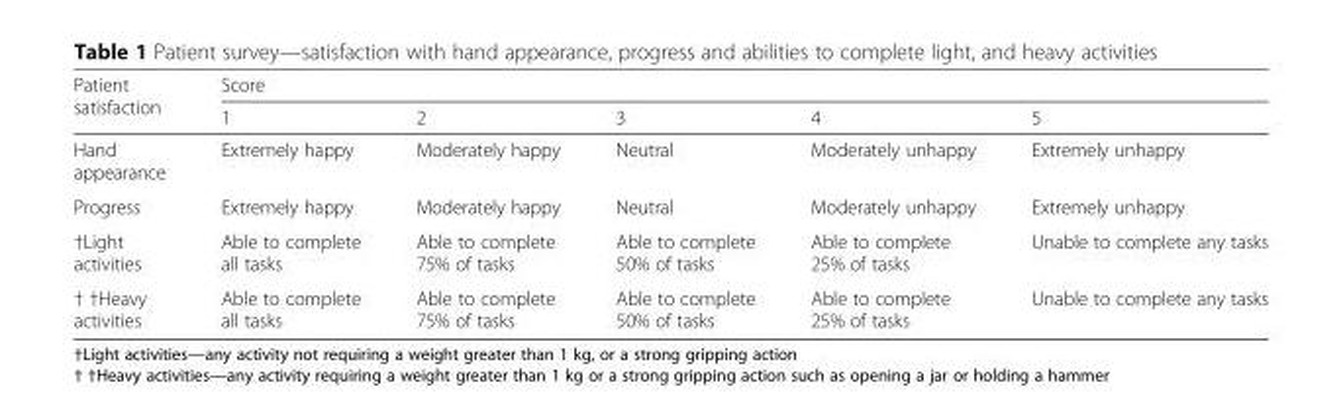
<table><thead><tr><td rowspan="2">Patient satisfaction</td><td colspan="5">Score</td></tr><tr><td>1</td><td>2</td><td>3</td><td>4</td><td>5</td></tr></thead><tbody><tr><td>Hand appearance</td><td>Extremely happy</td><td>Moderately happy</td><td>Neutral</td><td>Moderately unhappy</td><td>Extremely unhappy</td></tr><tr><td>Progress</td><td>Extremely happy</td><td>Moderately happy</td><td>Neutral</td><td>Moderately unhappy</td><td>Extremely unhappy</td></tr><tr><td>†Light activities</td><td>Able to complete all tasks</td><td>Able to complete 75% of tasks</td><td>Able to complete 50% of tasks</td><td>Able to complete 25% of tasks</td><td>Unable to complete any tasks</td></tr><tr><td>† †Heavy activities</td><td>Able to complete all tasks</td><td>Able to complete 75% of tasks</td><td>Able to complete 50% of tasks</td><td>Able to complete 25% of tasks</td><td>Unable to complete any tasks</td></tr></tbody></table>